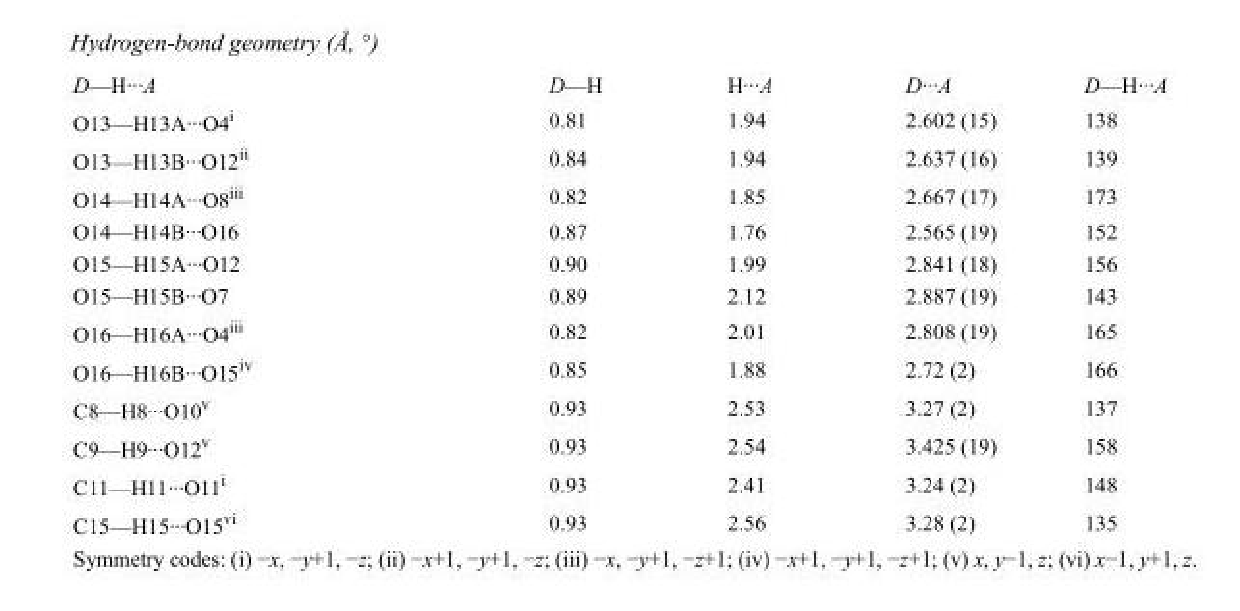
<table><tbody><tr><td>D—H···A</td><td>D—H</td><td>H···A</td><td>D···A</td><td>D—H···A</td></tr><tr><td>O13—H13A···O4<sup>i</sup></td><td>0.81</td><td>1.94</td><td>2.602 (15)</td><td>138</td></tr><tr><td>O13—H13B···O12<sup>ii</sup></td><td>0.84</td><td>1.94</td><td>2.637 (16)</td><td>139</td></tr><tr><td>O14—H14A···O8<sup>iii</sup></td><td>0.82</td><td>1.85</td><td>2.667 (17)</td><td>173</td></tr><tr><td>O14—H14B···O16</td><td>0.87</td><td>1.76</td><td>2.565 (19)</td><td>152</td></tr><tr><td>O15—H15A···O12</td><td>0.90</td><td>1.99</td><td>2.841 (18)</td><td>156</td></tr><tr><td>O15—H15B···O7</td><td>0.89</td><td>2.12</td><td>2.887 (19)</td><td>143</td></tr><tr><td>O16—H16A···O4<sup>iii</sup></td><td>0.82</td><td>2.01</td><td>2.808 (19)</td><td>165</td></tr><tr><td>O16—H16B···O15<sup>iv</sup></td><td>0.85</td><td>1.88</td><td>2.72 (2)</td><td>166</td></tr><tr><td>C8—H8···O10<sup>v</sup></td><td>0.93</td><td>2.53</td><td>3.27 (2)</td><td>137</td></tr><tr><td>C9—H9···O12<sup>v</sup></td><td>0.93</td><td>2.54</td><td>3.425 (19)</td><td>158</td></tr><tr><td>C11—H11···O11<sup>i</sup></td><td>0.93</td><td>2.41</td><td>3.24 (2)</td><td>148</td></tr><tr><td>C15—H15···O15<sup>vi</sup></td><td>0.93</td><td>2.56</td><td>3.28 (2)</td><td>135</td></tr></tbody></table>